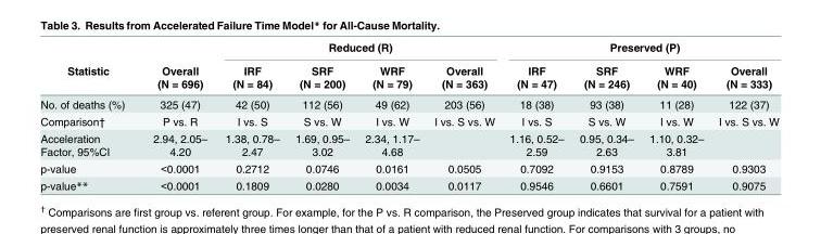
<table><thead><tr><td rowspan="2">Statistic</td><td rowspan="2">Overall (N = 696)</td><td colspan="4">Reduced (R)</td><td colspan="4">Preserved (P)</td></tr><tr><td>IRF (N = 84)</td><td>SRF (N = 200)</td><td>WRF (N = 79)</td><td>Overall (N = 363)</td><td>IRF (N = 47)</td><td>SRF (N = 246)</td><td>WRF (N = 40)</td><td>Overall (N = 333)</td></tr></thead><tbody><tr><td>No. of deaths (%)</td><td>325 (47)</td><td>42 (50)</td><td>112 (56)</td><td>49 (62)</td><td>203 (56)</td><td>18 (38)</td><td>93 (38)</td><td>11 (28)</td><td>122 (37)</td></tr><tr><td>Comparison†</td><td>P vs. R</td><td>I vs. S</td><td>S vs. W</td><td>I vs. W</td><td>I vs. S vs. W</td><td>I vs. S</td><td>S vs. W</td><td>I vs. W</td><td>I vs. S vs. W</td></tr><tr><td>Acceleration Factor, 95%CI</td><td>2.94, 2.05– 4.20</td><td>1.38, 0.78– 2.47</td><td>1.69, 0.95– 3.02</td><td>2.34, 1.17– 4.68</td><td></td><td>1.16, 0.52– 2.59</td><td>0.95, 0.34– 2.63</td><td>1.10, 0.32– 3.81</td><td></td></tr><tr><td>p-value</td><td>&lt;0.0001</td><td>0.2712</td><td>0.0746</td><td>0.0161</td><td>0.0505</td><td>0.7092</td><td>0.9153</td><td>0.8789</td><td>0.9303</td></tr><tr><td>p-value**</td><td>&lt;0.0001</td><td>0.1809</td><td>0.0280</td><td>0.0034</td><td>0.0117</td><td>0.9546</td><td>0.6601</td><td>0.7591</td><td>0.9075</td></tr></tbody></table>